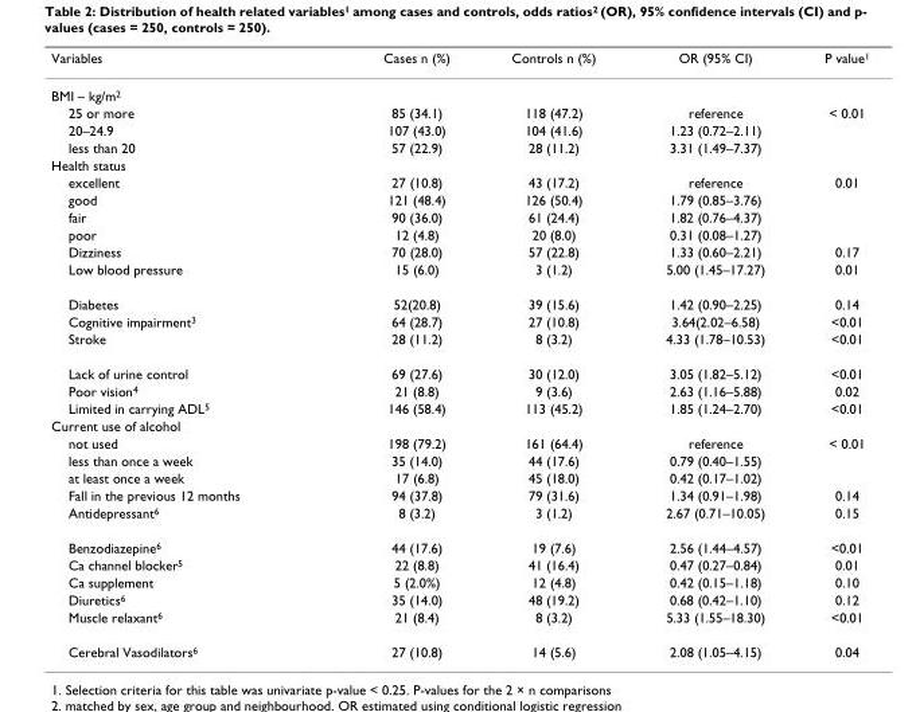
<table><thead><tr><td>Variables</td><td>Cases n (%)</td><td>Controls n (%)</td><td>OR (95% CI)</td><td>P value<sup>1</sup></td></tr></thead><tbody><tr><td colspan="5">BMI – kg/m<sup>2</sup></td></tr><tr><td>25 or more</td><td>85 (34.1)</td><td>118 (47.2)</td><td>reference</td><td>&lt; 0.01</td></tr><tr><td>20–24.9</td><td>107 (43.0)</td><td>104 (41.6)</td><td>1.23 (0.72–2.11)</td><td></td></tr><tr><td>less than 20</td><td>57 (22.9)</td><td>28 (11.2)</td><td>3.31 (1.49–7.37)</td><td></td></tr><tr><td colspan="5">Health status</td></tr><tr><td>excellent</td><td>27 (10.8)</td><td>43 (17.2)</td><td>reference</td><td>0.01</td></tr><tr><td>good</td><td>121 (48.4)</td><td>126 (50.4)</td><td>1.79 (0.85–3.76)</td><td></td></tr><tr><td>fair</td><td>90 (36.0)</td><td>61 (24.4)</td><td>1.82 (0.76–4.37)</td><td></td></tr><tr><td>poor</td><td>12 (4.8)</td><td>20 (8.0)</td><td>0.31 (0.08–1.27)</td><td></td></tr><tr><td>Dizziness</td><td>70 (28.0)</td><td>57 (22.8)</td><td>1.33 (0.60–2.21)</td><td>0.17</td></tr><tr><td>Low blood pressure</td><td>15 (6.0)</td><td>3 (1.2)</td><td>5.00 (1.45–17.27)</td><td>0.01</td></tr><tr><td>Diabetes</td><td>52(20.8)</td><td>39 (15.6)</td><td>1.42 (0.90–2.25)</td><td>0.14</td></tr><tr><td>Cognitive impairment<sup>3</sup></td><td>64 (28.7)</td><td>27 (10.8)</td><td>3.64(2.02–6.58)</td><td>&lt;0.01</td></tr><tr><td>Stroke</td><td>28 (11.2)</td><td>8 (3.2)</td><td>4.33 (1.78–10.53)</td><td>&lt;0.01</td></tr><tr><td>Lack of urine control</td><td>69 (27.6)</td><td>30 (12.0)</td><td>3.05 (1.82–5.12)</td><td>&lt;0.01</td></tr><tr><td>Poor vision<sup>4</sup></td><td>21 (8.8)</td><td>9 (3.6)</td><td>2.63 (1.16–5.88)</td><td>0.02</td></tr><tr><td>Limited in carrying ADL<sup>5</sup></td><td>146 (58.4)</td><td>113 (45.2)</td><td>1.85 (1.24–2.70)</td><td>&lt;0.01</td></tr><tr><td colspan="5">Current use of alcohol</td></tr><tr><td>not used</td><td>198 (79.2)</td><td>161 (64.4)</td><td>reference</td><td>&lt; 0.01</td></tr><tr><td>less than once a week</td><td>35 (14.0)</td><td>44 (17.6)</td><td>0.79 (0.40–1.55)</td><td></td></tr><tr><td>at least once a week</td><td>17 (6.8)</td><td>45 (18.0)</td><td>0.42 (0.17–1.02)</td><td></td></tr><tr><td>Fall in the previous 12 months</td><td>94 (37.8)</td><td>79 (31.6)</td><td>1.34 (0.91–1.98)</td><td>0.14</td></tr><tr><td>Antidepressant<sup>6</sup></td><td>8 (3.2)</td><td>3 (1.2)</td><td>2.67 (0.71–10.05)</td><td>0.15</td></tr><tr><td>Benzodiazepine<sup>6</sup></td><td>44 (17.6)</td><td>19 (7.6)</td><td>2.56 (1.44–4.57)</td><td>&lt;0.01</td></tr><tr><td>Ca channel blocker<sup>5</sup></td><td>22 (8.8)</td><td>41 (16.4)</td><td>0.47 (0.27–0.84)</td><td>0.01</td></tr><tr><td>Ca supplement</td><td>5 (2.0%)</td><td>12 (4.8)</td><td>0.42 (0.15–1.18)</td><td>0.10</td></tr><tr><td>Diuretics<sup>6</sup></td><td>35 (14.0)</td><td>48 (19.2)</td><td>0.68 (0.42–1.10)</td><td>0.12</td></tr><tr><td>Muscle relaxant<sup>6</sup></td><td>21 (8.4)</td><td>8 (3.2)</td><td>5.33 (1.55–18.30)</td><td>&lt;0.01</td></tr><tr><td>Cerebral Vasodilators<sup>6</sup></td><td>27 (10.8)</td><td>14 (5.6)</td><td>2.08 (1.05–4.15)</td><td>0.04</td></tr></tbody></table>